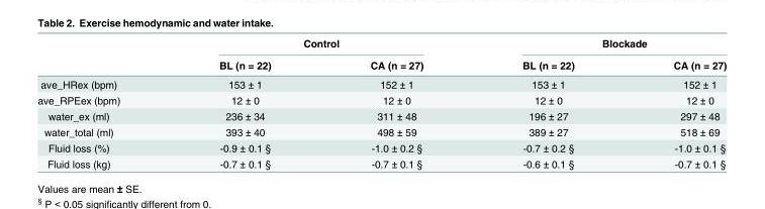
<table><thead><tr><td rowspan="2"></td><td colspan="2">Control</td><td colspan="2">Blockade</td></tr><tr><td>BL (n = 22)</td><td>CA (n = 27)</td><td>BL (n = 22)</td><td>CA (n = 27)</td></tr></thead><tbody><tr><td>ave_HRex (bpm)</td><td>153 ± 1</td><td>152 ± 1</td><td>153 ± 1</td><td>152 ± 1</td></tr><tr><td>ave_RPEex (bpm)</td><td>12 ± 0</td><td>12 ± 0</td><td>12 ± 0</td><td>12 ± 0</td></tr><tr><td>water_ex (ml)</td><td>236 ± 34</td><td>311 ± 48</td><td>196 ± 27</td><td>297 ± 48</td></tr><tr><td>water_total (ml)</td><td>393 ± 40</td><td>498 ± 59</td><td>389 ± 27</td><td>518 ± 69</td></tr><tr><td>Fluid loss (%)</td><td>-0.9 ± 0.1 §</td><td>-1.0 ± 0.2 §</td><td>-0.7 ± 0.2 §</td><td>-1.0 ± 0.1 §</td></tr><tr><td>Fluid loss (kg)</td><td>-0.7 ± 0.1 §</td><td>-0.7 ± 0.1 §</td><td>-0.6 ± 0.1 §</td><td>-0.7 ± 0.1 §</td></tr></tbody></table>